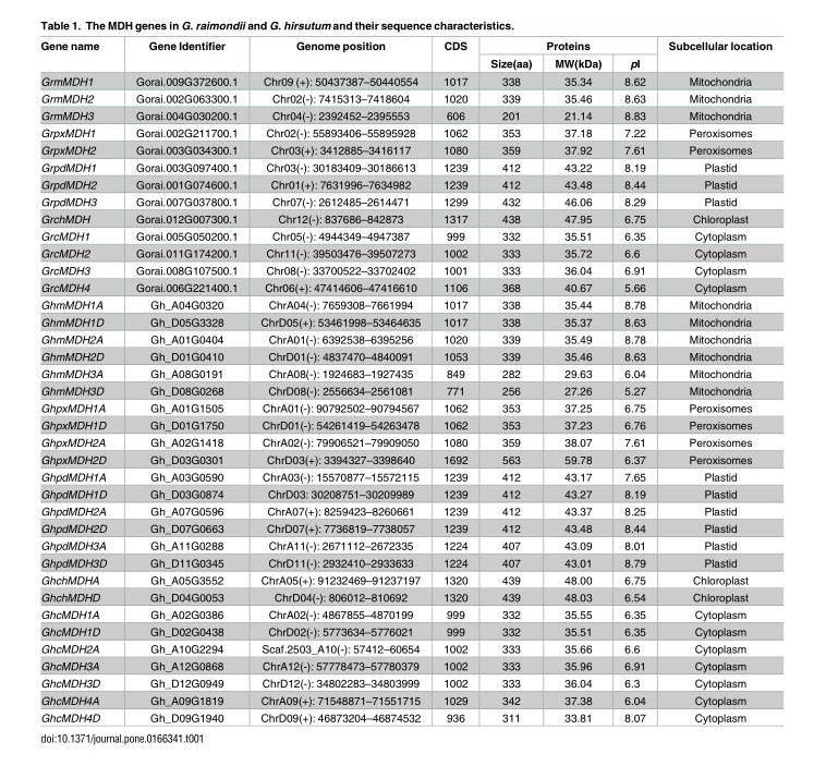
<table><thead><tr><td rowspan="2">Gene name</td><td rowspan="2">Gene Identifier</td><td rowspan="2">Genome position</td><td rowspan="2">CDS</td><td colspan="3">Proteins</td><td rowspan="2">Subcellular location</td></tr><tr><td>Size(aa)</td><td>MW(kDa)</td><td>pI</td></tr></thead><tbody><tr><td>GrmMDH1</td><td>Gorai.009G372600.1</td><td>Chr09 (+): 50437387–50440554</td><td>1017</td><td>338</td><td>35.34</td><td>8.62</td><td>Mitochondria</td></tr><tr><td>GrmMDH2</td><td>Gorai.002G063300.1</td><td>Chr02(-): 7415313–7418604</td><td>1020</td><td>339</td><td>35.46</td><td>8.63</td><td>Mitochondria</td></tr><tr><td>GrmMDH3</td><td>Gorai.004G030200.1</td><td>Chr04(-): 2392452–2395553</td><td>606</td><td>201</td><td>21.14</td><td>8.83</td><td>Mitochondria</td></tr><tr><td>GrpxMDH1</td><td>Gorai.002G211700.1</td><td>Chr02(-): 55893406–55895928</td><td>1062</td><td>353</td><td>37.18</td><td>7.22</td><td>Peroxisomes</td></tr><tr><td>GrpxMDH2</td><td>Gorai.003G034300.1</td><td>Chr03(+): 3412885–3416117</td><td>1080</td><td>359</td><td>37.92</td><td>7.61</td><td>Peroxisomes</td></tr><tr><td>GrpdMDH1</td><td>Gorai.003G097400.1</td><td>Chr03(-): 30183409–30186613</td><td>1239</td><td>412</td><td>43.22</td><td>8.19</td><td>Plastid</td></tr><tr><td>GrpdMDH2</td><td>Gorai.001G074600.1</td><td>Chr01(+): 7631996–7634982</td><td>1239</td><td>412</td><td>43.48</td><td>8.44</td><td>Plastid</td></tr><tr><td>GrpdMDH3</td><td>Gorai.007G037800.1</td><td>Chr07(-): 2612485–2614471</td><td>1299</td><td>432</td><td>46.06</td><td>8.29</td><td>Plastid</td></tr><tr><td>GrchMDH</td><td>Gorai.012G007300.1</td><td>Chr12(-): 837686–842873</td><td>1317</td><td>438</td><td>47.95</td><td>6.75</td><td>Chloroplast</td></tr><tr><td>GrcMDH1</td><td>Gorai.005G050200.1</td><td>Chr05(-): 4944349–4947387</td><td>999</td><td>332</td><td>35.51</td><td>6.35</td><td>Cytoplasm</td></tr><tr><td>GrcMDH2</td><td>Gorai.011G174200.1</td><td>Chr11(-): 39503476–39507273</td><td>1002</td><td>333</td><td>35.72</td><td>6.6</td><td>Cytoplasm</td></tr><tr><td>GrcMDH3</td><td>Gorai.008G107500.1</td><td>Chr08(-): 33700522–33702402</td><td>1001</td><td>333</td><td>36.04</td><td>6.91</td><td>Cytoplasm</td></tr><tr><td>GrcMDH4</td><td>Gorai.006G221400.1</td><td>Chr06(+): 47414606–47416610</td><td>1106</td><td>368</td><td>40.67</td><td>5.66</td><td>Cytoplasm</td></tr><tr><td>GhmMDH1A</td><td>Gh_A04G0320</td><td>ChrA04(-): 7659308–7661994</td><td>1017</td><td>338</td><td>35.44</td><td>8.78</td><td>Mitochondria</td></tr><tr><td>GhmMDH1D</td><td>Gh_D05G3328</td><td>ChrD05(+): 53461998–53464635</td><td>1017</td><td>338</td><td>35.37</td><td>8.63</td><td>Mitochondria</td></tr><tr><td>GhmMDH2A</td><td>Gh_A01G0404</td><td>ChrA01(-): 6392538–6395256</td><td>1020</td><td>339</td><td>35.49</td><td>8.78</td><td>Mitochondria</td></tr><tr><td>GhmMDH2D</td><td>Gh_D01G0410</td><td>ChrD01(-): 4837470–4840091</td><td>1053</td><td>339</td><td>35.46</td><td>8.63</td><td>Mitochondria</td></tr><tr><td>GhmMDH3A</td><td>Gh_A08G0191</td><td>ChrA08(-): 1924683–1927435</td><td>849</td><td>282</td><td>29.63</td><td>6.04</td><td>Mitochondria</td></tr><tr><td>GhmMDH3D</td><td>Gh_D08G0268</td><td>ChrD08(-): 2556634–2561081</td><td>771</td><td>256</td><td>27.26</td><td>5.27</td><td>Mitochondria</td></tr><tr><td>GhpxMDH1A</td><td>Gh_A01G1505</td><td>ChrA01(-): 90792502–90794567</td><td>1062</td><td>353</td><td>37.25</td><td>6.75</td><td>Peroxisomes</td></tr><tr><td>GhpxMDH1D</td><td>Gh_D01G1750</td><td>ChrD01(-): 54261419–54263478</td><td>1062</td><td>353</td><td>37.23</td><td>6.76</td><td>Peroxisomes</td></tr><tr><td>GhpxMDH2A</td><td>Gh_A02G1418</td><td>ChrA02(-): 79906521–79909050</td><td>1080</td><td>359</td><td>38.07</td><td>7.61</td><td>Peroxisomes</td></tr><tr><td>GhpxMDH2D</td><td>Gh_D03G0301</td><td>ChrD03(+): 3394327–3398640</td><td>1692</td><td>563</td><td>59.78</td><td>6.37</td><td>Peroxisomes</td></tr><tr><td>GhpdMDH1A</td><td>Gh_A03G0590</td><td>ChrA03(-): 15570877–15572115</td><td>1239</td><td>412</td><td>43.17</td><td>7.65</td><td>Plastid</td></tr><tr><td>GhpdMDH1D</td><td>Gh_D03G0874</td><td>ChrD03: 30208751–30209989</td><td>1239</td><td>412</td><td>43.27</td><td>8.19</td><td>Plastid</td></tr><tr><td>GhpdMDH2A</td><td>Gh_A07G0596</td><td>ChrA07(+): 8259423–8260661</td><td>1239</td><td>412</td><td>43.37</td><td>8.25</td><td>Plastid</td></tr><tr><td>GhpdMDH2D</td><td>Gh_D07G0663</td><td>ChrD07(+): 7736819–7738057</td><td>1239</td><td>412</td><td>43.48</td><td>8.44</td><td>Plastid</td></tr><tr><td>GhpdMDH3A</td><td>Gh_A11G0288</td><td>ChrA11(-): 2671112–2672335</td><td>1224</td><td>407</td><td>43.09</td><td>8.01</td><td>Plastid</td></tr><tr><td>GhpdMDH3D</td><td>Gh_D11G0345</td><td>ChrD11(-): 2932410–2933633</td><td>1224</td><td>407</td><td>43.01</td><td>8.79</td><td>Plastid</td></tr><tr><td>GhchMDHA</td><td>Gh_A05G3552</td><td>ChrA05(+): 91232469–91237197</td><td>1320</td><td>439</td><td>48.00</td><td>6.75</td><td>Chloroplast</td></tr><tr><td>GhchMDHD</td><td>Gh_D04G0053</td><td>ChrD04(-): 806012–810692</td><td>1320</td><td>439</td><td>48.03</td><td>6.54</td><td>Chloroplast</td></tr><tr><td>GhcMDH1A</td><td>Gh_A02G0386</td><td>ChrA02(-): 4867855–4870199</td><td>999</td><td>332</td><td>35.55</td><td>6.35</td><td>Cytoplasm</td></tr><tr><td>GhcMDH1D</td><td>Gh_D02G0438</td><td>ChrD02(-): 5773634–5776021</td><td>999</td><td>332</td><td>35.51</td><td>6.35</td><td>Cytoplasm</td></tr><tr><td>GhcMDH2A</td><td>Gh_A10G2294</td><td>Scaf.2503_A10(-): 57412–60654</td><td>1002</td><td>333</td><td>35.66</td><td>6.6</td><td>Cytoplasm</td></tr><tr><td>GhcMDH3A</td><td>Gh_A12G0868</td><td>ChrA12(-): 57778473–57780379</td><td>1002</td><td>333</td><td>35.96</td><td>6.91</td><td>Cytoplasm</td></tr><tr><td>GhcMDH3D</td><td>Gh_D12G0949</td><td>ChrD12(-): 34802283–34803999</td><td>1002</td><td>333</td><td>36.04</td><td>6.3</td><td>Cytoplasm</td></tr><tr><td>GhcMDH4A</td><td>Gh_A09G1819</td><td>ChrA09(+): 71548871–71551715</td><td>1029</td><td>342</td><td>37.38</td><td>6.04</td><td>Cytoplasm</td></tr><tr><td>GhcMDH4D</td><td>Gh_D09G1940</td><td>ChrD09(+): 46873204–46874532</td><td>936</td><td>311</td><td>33.81</td><td>8.07</td><td>Cytoplasm</td></tr></tbody></table>